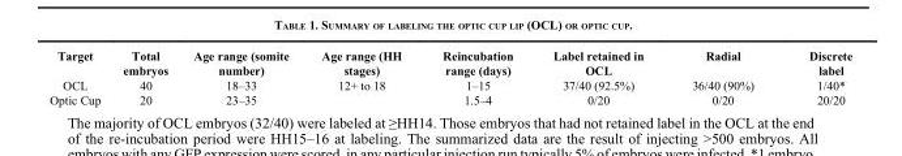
<table><thead><tr><td>Target</td><td>Total embryos</td><td>Age range (somite number)</td><td>Age range (HH stages)</td><td>Reincubation range (days)</td><td>Label retained in OCL</td><td>Radial</td><td>Discrete label</td></tr></thead><tbody><tr><td>OCL</td><td>40</td><td>18–33</td><td>12+ to 18</td><td>1–15</td><td>37/40 (92.5%)</td><td>36/40 (90%)</td><td>1/40*</td></tr><tr><td>Optic Cup</td><td>20</td><td>23–35</td><td></td><td>1.5–4</td><td>0/20</td><td>0/20</td><td>20/20</td></tr></tbody></table>